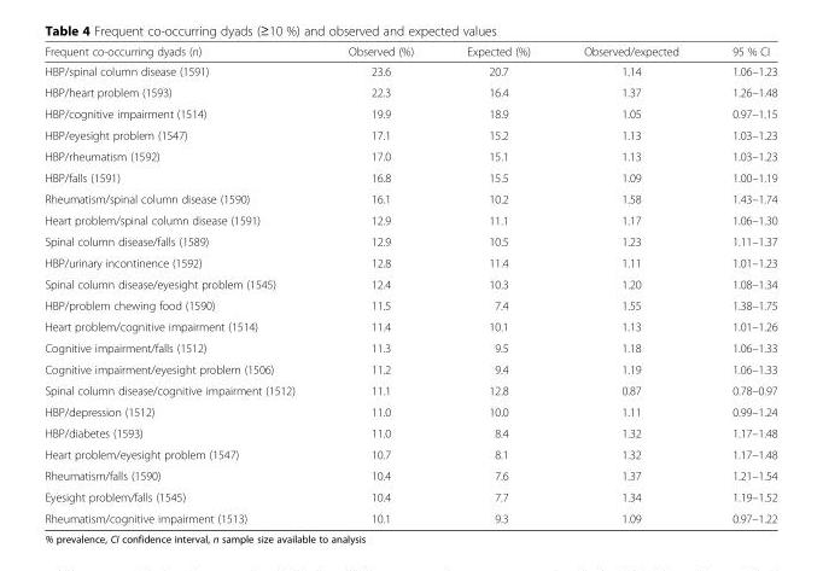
<table><thead><tr><td>Frequent co-occurring dyads (n)</td><td>Observed (%)</td><td>Expected (%)</td><td>Observed/expected</td><td>95 % CI</td></tr></thead><tbody><tr><td>HBP/spinal column disease (1591)</td><td>23.6</td><td>20.7</td><td>1.14</td><td>1.06–1.23</td></tr><tr><td>HBP/heart problem (1593)</td><td>22.3</td><td>16.4</td><td>1.37</td><td>1.26–1.48</td></tr><tr><td>HBP/cognitive impairment (1514)</td><td>19.9</td><td>18.9</td><td>1.05</td><td>0.97–1.15</td></tr><tr><td>HBP/eyesight problem (1547)</td><td>17.1</td><td>15.2</td><td>1.13</td><td>1.03–1.23</td></tr><tr><td>HBP/rheumatism (1592)</td><td>17.0</td><td>15.1</td><td>1.13</td><td>1.03–1.23</td></tr><tr><td>HBP/falls (1591)</td><td>16.8</td><td>15.5</td><td>1.09</td><td>1.00–1.19</td></tr><tr><td>Rheumatism/spinal column disease (1590)</td><td>16.1</td><td>10.2</td><td>1.58</td><td>1.43–1.74</td></tr><tr><td>Heart problem/spinal column disease (1591)</td><td>12.9</td><td>11.1</td><td>1.17</td><td>1.06–1.30</td></tr><tr><td>Spinal column disease/falls (1589)</td><td>12.9</td><td>10.5</td><td>1.23</td><td>1.11–1.37</td></tr><tr><td>HBP/urinary incontinence (1592)</td><td>12.8</td><td>11.4</td><td>1.11</td><td>1.01–1.23</td></tr><tr><td>Spinal column disease/eyesight problem (1545)</td><td>12.4</td><td>10.3</td><td>1.20</td><td>1.08–1.34</td></tr><tr><td>HBP/problem chewing food (1590)</td><td>11.5</td><td>7.4</td><td>1.55</td><td>1.38–1.75</td></tr><tr><td>Heart problem/cognitive impairment (1514)</td><td>11.4</td><td>10.1</td><td>1.13</td><td>1.01–1.26</td></tr><tr><td>Cognitive impairment/falls (1512)</td><td>11.3</td><td>9.5</td><td>1.18</td><td>1.06–1.33</td></tr><tr><td>Cognitive impairment/eyesight problem (1506)</td><td>11.2</td><td>9.4</td><td>1.19</td><td>1.06–1.33</td></tr><tr><td>Spinal column disease/cognitive impairment (1512)</td><td>11.1</td><td>12.8</td><td>0.87</td><td>0.78–0.97</td></tr><tr><td>HBP/depression (1512)</td><td>11.0</td><td>10.0</td><td>1.11</td><td>0.99–1.24</td></tr><tr><td>HBP/diabetes (1593)</td><td>11.0</td><td>8.4</td><td>1.32</td><td>1.17–1.48</td></tr><tr><td>Heart problem/eyesight problem (1547)</td><td>10.7</td><td>8.1</td><td>1.32</td><td>1.17–1.48</td></tr><tr><td>Rheumatism/falls (1590)</td><td>10.4</td><td>7.6</td><td>1.37</td><td>1.21–1.54</td></tr><tr><td>Eyesight problem/falls (1545)</td><td>10.4</td><td>7.7</td><td>1.34</td><td>1.19–1.52</td></tr><tr><td>Rheumatism/cognitive impairment (1513)</td><td>10.1</td><td>9.3</td><td>1.09</td><td>0.97–1.22</td></tr></tbody></table>